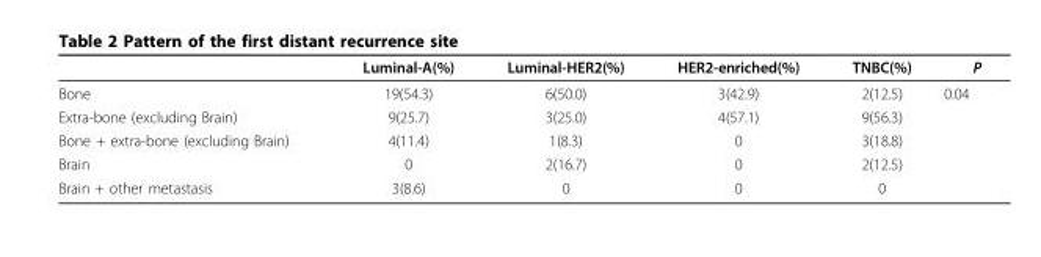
<table><thead><tr><td></td><td>Luminal-A(%)</td><td>Luminal-HER2(%)</td><td>HER2-enriched(%)</td><td>TNBC(%)</td><td>P</td></tr></thead><tbody><tr><td>Bone</td><td>19(54.3)</td><td>6(50.0)</td><td>3(42.9)</td><td>2(12.5)</td><td>0.04</td></tr><tr><td>Extra-bone (excluding Brain)</td><td>9(25.7)</td><td>3(25.0)</td><td>4(57.1)</td><td>9(56.3)</td><td></td></tr><tr><td>Bone + extra-bone (excluding Brain)</td><td>4(11.4)</td><td>1(8.3)</td><td>0</td><td>3(18.8)</td><td></td></tr><tr><td>Brain</td><td>0</td><td>2(16.7)</td><td>0</td><td>2(12.5)</td><td></td></tr><tr><td>Brain + other metastasis</td><td>3(8.6)</td><td>0</td><td>0</td><td>0</td><td></td></tr></tbody></table>